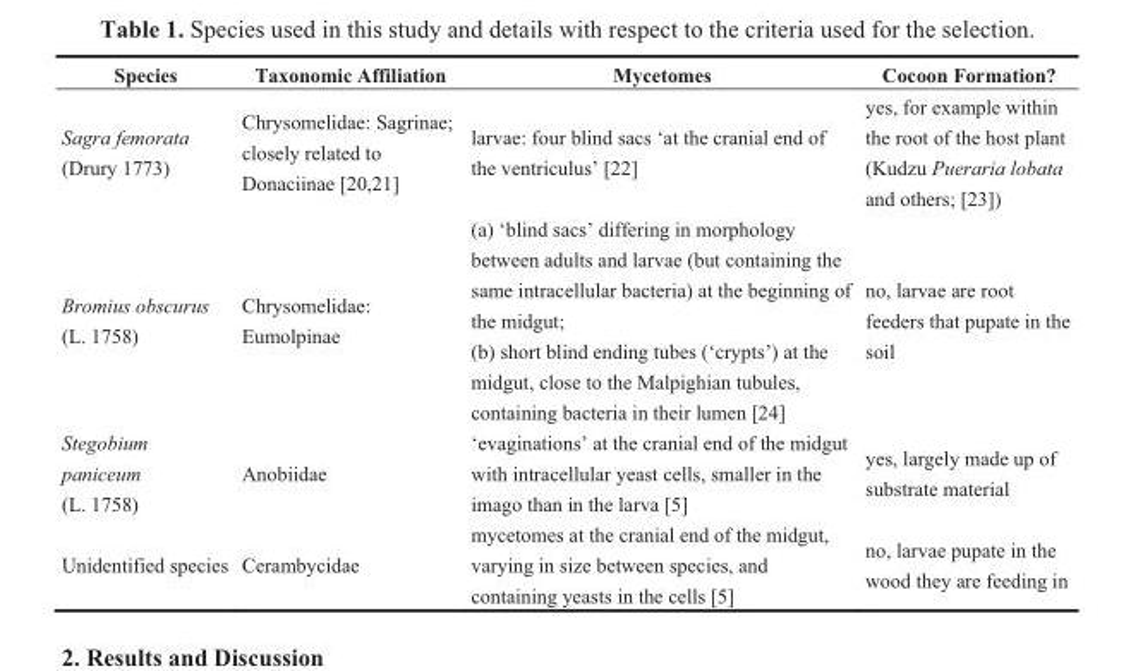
<table><thead><tr><td>Species</td><td>Taxonomic Affiliation</td><td>Mycetomes</td><td>Cocoon Formation?</td></tr></thead><tbody><tr><td>Sagra femorata (Drury 1773)</td><td>Chrysomelidae: Sagrinae; closely related to Donaciinae [20,21]</td><td>larvae: four blind sacs ‘at the cranial end of the ventriculus’ [22]</td><td>yes, for example within the root of the host plant (Kudzu Pueraria lobata and others; [23])</td></tr><tr><td>Bromius obscurus (L. 1758)</td><td>Chrysomelidae: Eumolpinae</td><td>(a) ‘blind sacs’ differing in morphology between adults and larvae (but containing the same intracellular bacteria) at the beginning of the midgut; (b) short blind ending tubes (‘crypts’) at the midgut, close to the Malpighian tubules, containing bacteria in their lumen [24]</td><td>no, larvae are root feeders that pupate in the soil</td></tr><tr><td>Stegobium paniceum (L. 1758)</td><td>Anobiidae</td><td>‘evaginations’ at the cranial end of the midgut with intracellular yeast cells, smaller in the imago than in the larva [5]</td><td>yes, largely made up of substrate material</td></tr><tr><td>Unidentified species</td><td>Cerambycidae</td><td>mycetomes at the cranial end of the midgut, varying in size between species, and containing yeasts in the cells [5]</td><td>no, larvae pupate in the wood they are feeding in</td></tr></tbody></table>